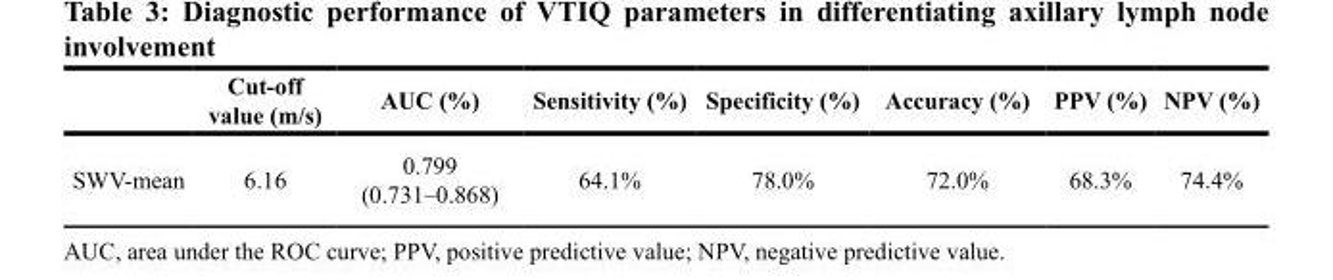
<table><thead><tr><td></td><td>Cut-off value (m/s)</td><td>AUC (%)</td><td>Sensitivity (%)</td><td>Specificity (%)</td><td>Accuracy (%)</td><td>PPV (%)</td><td>NPV (%)</td></tr></thead><tbody><tr><td>SWV-mean</td><td>6.16</td><td>0.799 (0.731–0.868)</td><td>64.1%</td><td>78.0%</td><td>72.0%</td><td>68.3%</td><td>74.4%</td></tr></tbody></table>